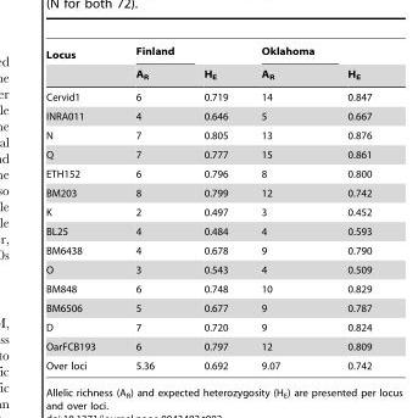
<table><thead><tr><td rowspan="2">Locus</td><td rowspan="2">Finland A<sub>R</sub></td><td rowspan="2">H<sub>E</sub></td><td rowspan="2">Oklahoma A<sub>R</sub></td><td rowspan="2">H<sub>E</sub></td></tr><tr></tr></thead><tbody><tr><td>Cervid1</td><td>6</td><td>0.719</td><td>14</td><td>0.847</td></tr><tr><td>INRA011</td><td>4</td><td>0.646</td><td>5</td><td>0.667</td></tr><tr><td>N</td><td>7</td><td>0.805</td><td>13</td><td>0.876</td></tr><tr><td>Q</td><td>7</td><td>0.777</td><td>15</td><td>0.861</td></tr><tr><td>ETH152</td><td>6</td><td>0.796</td><td>8</td><td>0.800</td></tr><tr><td>BM203</td><td>8</td><td>0.799</td><td>12</td><td>0.742</td></tr><tr><td>K</td><td>2</td><td>0.497</td><td>3</td><td>0.452</td></tr><tr><td>BL25</td><td>4</td><td>0.484</td><td>4</td><td>0.593</td></tr><tr><td>BM6438</td><td>4</td><td>0.678</td><td>9</td><td>0.790</td></tr><tr><td>O</td><td>3</td><td>0.543</td><td>4</td><td>0.509</td></tr><tr><td>BM848</td><td>6</td><td>0.748</td><td>10</td><td>0.829</td></tr><tr><td>BM6506</td><td>5</td><td>0.677</td><td>9</td><td>0.787</td></tr><tr><td>D</td><td>7</td><td>0.720</td><td>9</td><td>0.824</td></tr><tr><td>OarFCB193</td><td>6</td><td>0.797</td><td>12</td><td>0.809</td></tr><tr><td>Over loci</td><td>5.36</td><td>0.692</td><td>9.07</td><td>0.742</td></tr></tbody></table>